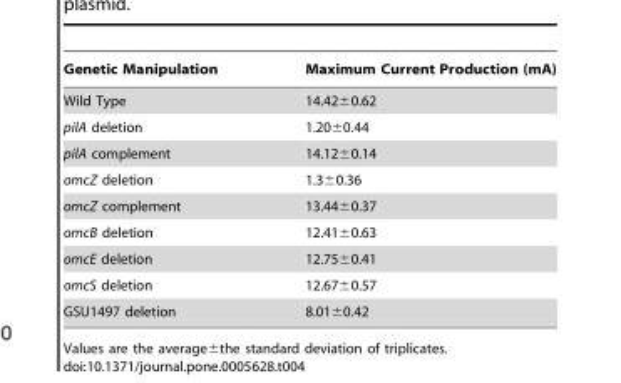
<table><thead><tr><td>Genetic Manipulation</td><td>Maximum Current Production (mA)</td></tr></thead><tbody><tr><td>Wild Type</td><td>14.42±0.62</td></tr><tr><td>pilA deletion</td><td>1.20±0.44</td></tr><tr><td>pilA complement</td><td>14.12±0.14</td></tr><tr><td>omcZ deletion</td><td>1.3±0.36</td></tr><tr><td>omcZ complement</td><td>13.44±0.37</td></tr><tr><td>omcB deletion</td><td>12.41±0.63</td></tr><tr><td>omcE deletion</td><td>12.75±0.41</td></tr><tr><td>omcS deletion</td><td>12.67±0.57</td></tr><tr><td>GSU1497 deletion</td><td>8.01±0.42</td></tr></tbody></table>